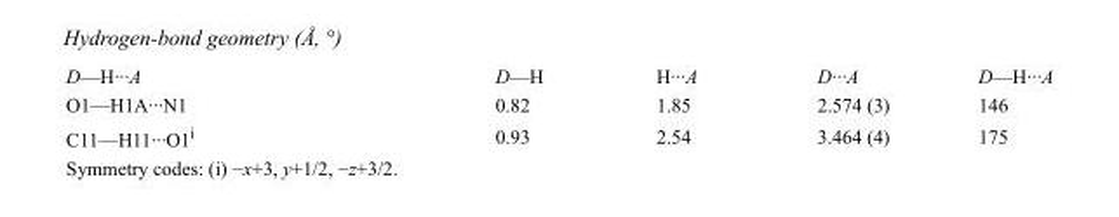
<table><tbody><tr><td>D—H···A</td><td>D—H</td><td>H···A</td><td>D···A</td><td>D—H···A</td></tr><tr><td>O1—H1A···N1</td><td>0.82</td><td>1.85</td><td>2.574 (3)</td><td>146</td></tr><tr><td>C11—H11···O1<sup>i</sup></td><td>0.93</td><td>2.54</td><td>3.464 (4)</td><td>175</td></tr></tbody></table>